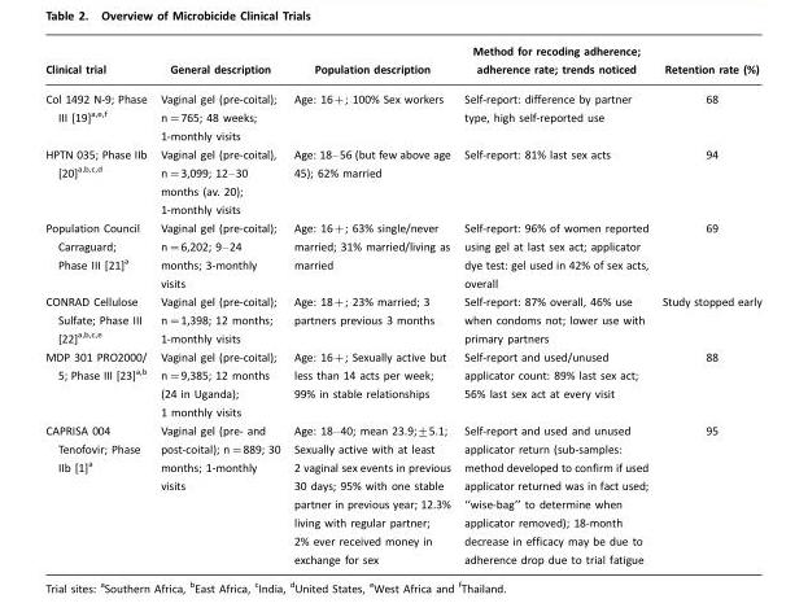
<table><thead><tr><td>Clinical trial</td><td>General description</td><td>Population description</td><td>Method for recoding adherence; adherence rate; trends noticed</td><td>Retention rate (%)</td></tr></thead><tbody><tr><td>Col 1492 N-9; Phase III [19]a,e,f</td><td>Vaginal gel (pre-coital); n=765; 48 weeks; 1-monthly visits</td><td>Age: 16+; 100% Sex workers</td><td>Self-report: difference by partner type, high self-reported use</td><td>68</td></tr><tr><td>HPTN 035; Phase IIb [20]a,b,c,d</td><td>Vaginal gel (pre-coital), n=3,099; 12–30 months (av. 20); 1-monthly visits</td><td>Age: 18–56 (but few above age 45); 62% married</td><td>Self-report: 81% last sex acts</td><td>94</td></tr><tr><td>Population Council Carraguard; Phase III [21]a</td><td>Vaginal gel (pre-coital); n=6,202; 9–24 months; 3-monthly visits</td><td>Age: 16+; 63% single/never married; 31% married/living as married</td><td>Self-report: 96% of women reported using gel at last sex act; applicator dye test: gel used in 42% of sex acts, overall</td><td>69</td></tr><tr><td>CONRAD Cellulose Sulfate; Phase III [22]a,b,c,e</td><td>Vaginal gel (pre-coital); n=1,398; 12 months; 1-monthly visits</td><td>Age: 18+; 23% married; 3 partners previous 3 months</td><td>Self-report: 87% overall, 46% use when condoms not; lower use with primary partners</td><td>Study stopped early</td></tr><tr><td>MDP 301 PRO2000/ 5; Phase III [23]a,b</td><td>Vaginal gel (pre-coital); n=9,385; 12 months (24 in Uganda); 1 monthly visits</td><td>Age: 16+; Sexually active but less than 14 acts per week; 99% in stable relationships</td><td>Self-report and used/unused applicator count: 89% last sex act; 56% last sex act at every visit</td><td>88</td></tr><tr><td>CAPRISA 004 Tenofovir; Phase IIb [1]a</td><td>Vaginal gel (pre- and post-coital); n=889; 30 months; 1-monthly visits</td><td>Age: 18–40; mean 23.9;±5.1; Sexually active with at least 2 vaginal sex events in previous 30 days; 95% with one stable partner in previous year; 12.3% living with regular partner; 2% ever received money in exchange for sex</td><td>Self-report and used and unused applicator return (sub-samples: method developed to confirm if used applicator returned was in fact used; ‘‘wise-bag’’ to determine when applicator removed); 18-month decrease in efficacy may be due to adherence drop due to trial fatigue</td><td>95</td></tr></tbody></table>